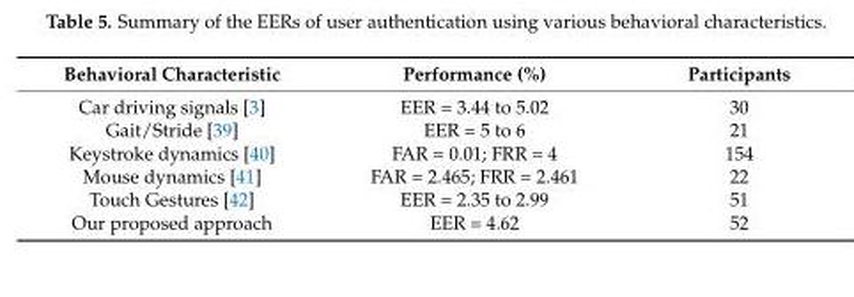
<table><thead><tr><td>Behavioral Characteristic</td><td>Performance (%)</td><td>Participants</td></tr></thead><tbody><tr><td>Car driving signals [3]</td><td>EER = 3.44 to 5.02</td><td>30</td></tr><tr><td>Gait/Stride [39]</td><td>EER = 5 to 6</td><td>21</td></tr><tr><td>Keystroke dynamics [40]</td><td>FAR = 0.01; FRR = 4</td><td>154</td></tr><tr><td>Mouse dynamics [41]</td><td>FAR = 2.465; FRR = 2.461</td><td>22</td></tr><tr><td>Touch Gestures [42]</td><td>EER = 2.35 to 2.99</td><td>51</td></tr><tr><td>Our proposed approach</td><td>EER = 4.62</td><td>52</td></tr></tbody></table>